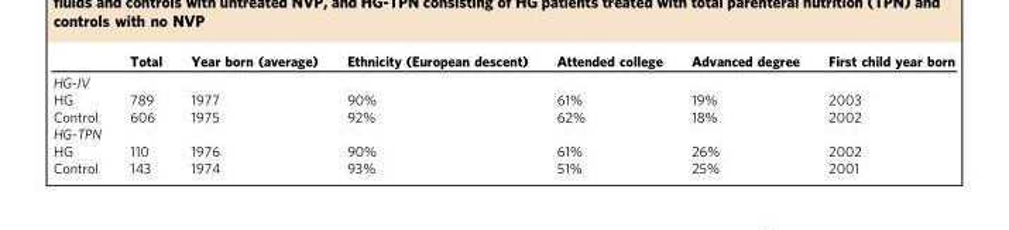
<table><thead><tr><td></td><td>Total</td><td>Year born (average)</td><td>Ethnicity (European descent)</td><td>Attended college</td><td>Advanced degree</td><td>First child year born</td></tr></thead><tbody><tr><td colspan="7">HG-IV</td></tr><tr><td>HG</td><td>789</td><td>1977</td><td>90%</td><td>61%</td><td>19%</td><td>2003</td></tr><tr><td>Control</td><td>606</td><td>1975</td><td>92%</td><td>62%</td><td>18%</td><td>2002</td></tr><tr><td colspan="7">HG-TPN</td></tr><tr><td>HG</td><td>110</td><td>1976</td><td>90%</td><td>61%</td><td>26%</td><td>2002</td></tr><tr><td>Control</td><td>143</td><td>1974</td><td>93%</td><td>51%</td><td>25%</td><td>2001</td></tr></tbody></table>